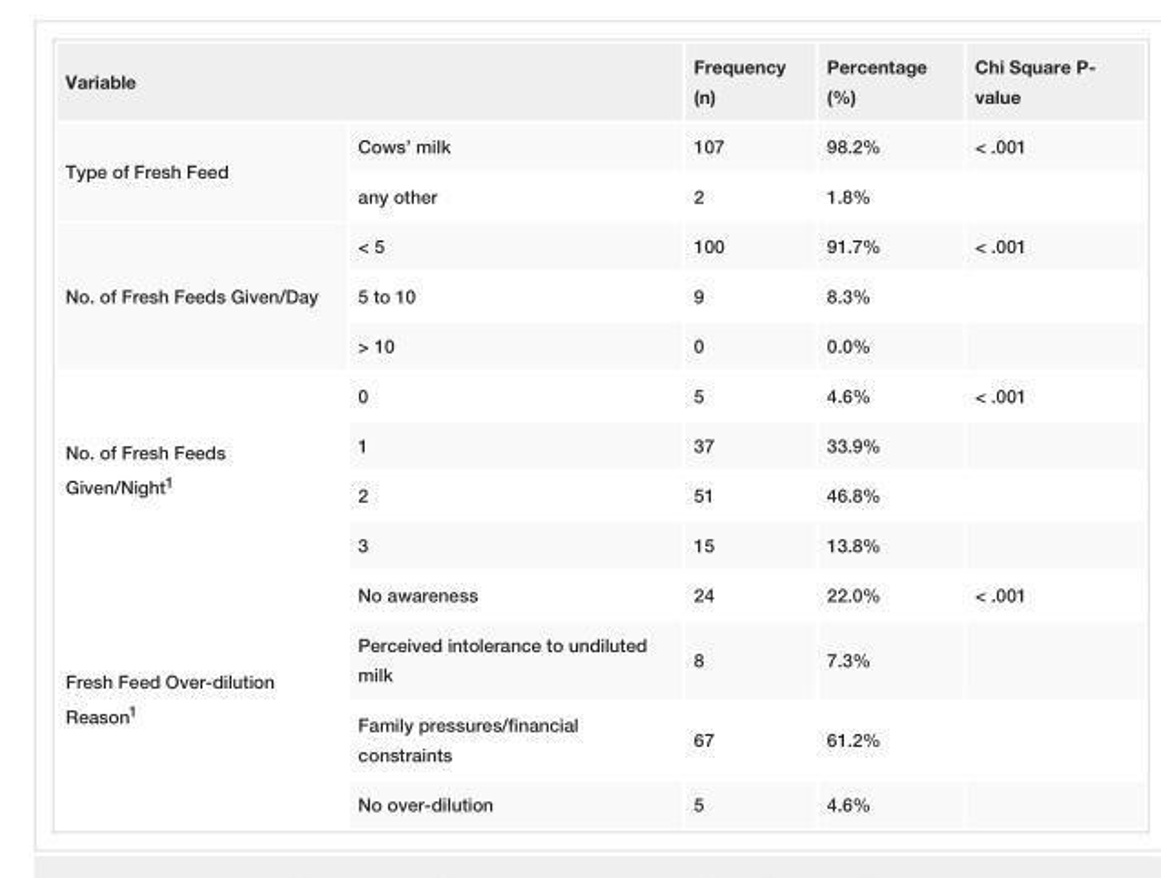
<table><tbody><tr><td colspan="2">Variable</td><td>Frequency (n)</td><td>Percentage (%)</td><td>Chi Square P- value</td></tr><tr><td rowspan="2">Type of Fresh Feed</td><td>Cows’ milk</td><td>107</td><td>98.2%</td><td>&lt; .001</td></tr><tr><td>any other</td><td>2</td><td>1.8%</td><td></td></tr><tr><td rowspan="3">No. of Fresh Feeds Given/Day</td><td>&lt; 5</td><td>100</td><td>91.7%</td><td>&lt; .001</td></tr><tr><td>5 to 10</td><td>9</td><td>8.3%</td><td></td></tr><tr><td>&gt; 10</td><td>0</td><td>0.0%</td><td></td></tr><tr><td rowspan="4">No. of Fresh Feeds Given/Night<sup>1</sup></td><td>0</td><td>5</td><td>4.6%</td><td>&lt; .001</td></tr><tr><td>1</td><td>37</td><td>33.9%</td><td></td></tr><tr><td>2</td><td>51</td><td>46.8%</td><td></td></tr><tr><td>3</td><td>15</td><td>13.8%</td><td></td></tr><tr><td rowspan="4">Fresh Feed Over-dilution Reason<sup>1</sup></td><td>No awareness</td><td>24</td><td>22.0%</td><td>&lt; .001</td></tr><tr><td>Perceived intolerance to undiluted milk</td><td>8</td><td>7.3%</td><td></td></tr><tr><td>Family pressures/financial constraints</td><td>67</td><td>61.2%</td><td></td></tr><tr><td>No over-dilution</td><td>5</td><td>4.6%</td><td></td></tr></tbody></table>